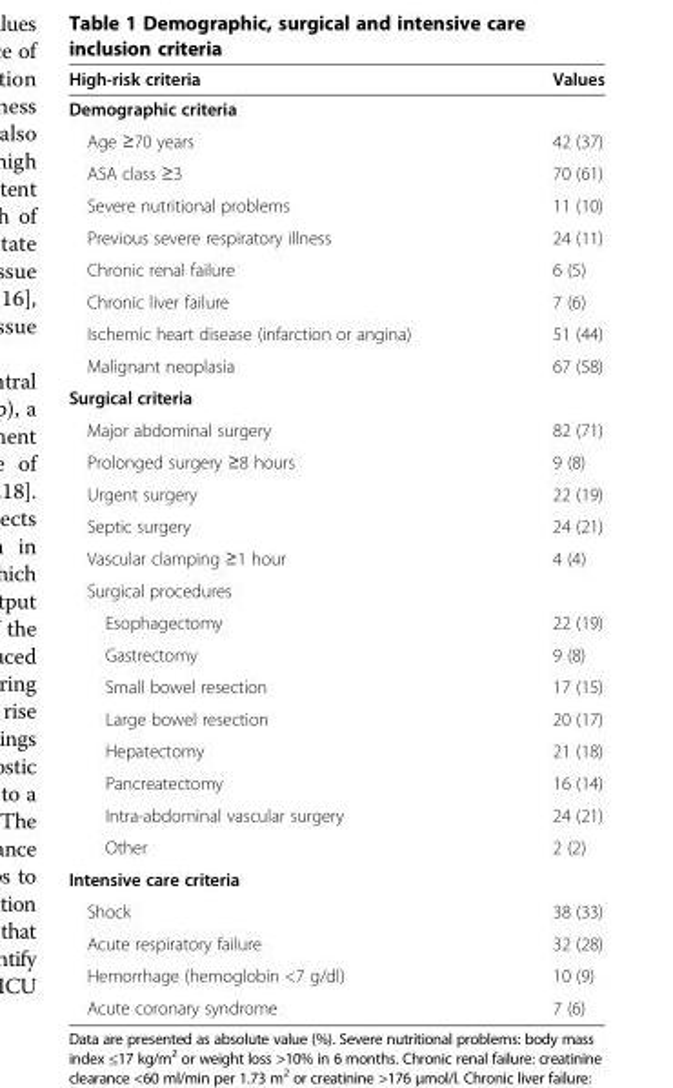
<table><thead><tr><td>High-risk criteria</td><td>Values</td></tr></thead><tbody><tr><td colspan="2">Demographic criteria</td></tr><tr><td>Age ≥70 years</td><td>42 (37)</td></tr><tr><td>ASA class ≥3</td><td>70 (61)</td></tr><tr><td>Severe nutritional problems</td><td>11 (10)</td></tr><tr><td>Previous severe respiratory illness</td><td>24 (11)</td></tr><tr><td>Chronic renal failure</td><td>6 (5)</td></tr><tr><td>Chronic liver failure</td><td>7 (6)</td></tr><tr><td>Ischemic heart disease (infarction or angina)</td><td>51 (44)</td></tr><tr><td>Malignant neoplasia</td><td>67 (58)</td></tr><tr><td colspan="2">Surgical criteria</td></tr><tr><td>Major abdominal surgery</td><td>82 (71)</td></tr><tr><td>Prolonged surgery ≥8 hours</td><td>9 (8)</td></tr><tr><td>Urgent surgery</td><td>22 (19)</td></tr><tr><td>Septic surgery</td><td>24 (21)</td></tr><tr><td>Vascular clamping ≥1 hour</td><td>4 (4)</td></tr><tr><td colspan="2">Surgical procedures</td></tr><tr><td>Esophagectomy</td><td>22 (19)</td></tr><tr><td>Gastrectomy</td><td>9 (8)</td></tr><tr><td>Small bowel resection</td><td>17 (15)</td></tr><tr><td>Large bowel resection</td><td>20 (17)</td></tr><tr><td>Hepatectomy</td><td>21 (18)</td></tr><tr><td>Pancreatectomy</td><td>16 (14)</td></tr><tr><td>Intra-abdominal vascular surgery</td><td>24 (21)</td></tr><tr><td>Other</td><td>2 (2)</td></tr><tr><td colspan="2">Intensive care criteria</td></tr><tr><td>Shock</td><td>38 (33)</td></tr><tr><td>Acute respiratory failure</td><td>32 (28)</td></tr><tr><td>Hemorrhage (hemoglobin &lt;7 g/dl)</td><td>10 (9)</td></tr><tr><td>Acute coronary syndrome</td><td>7 (6)</td></tr></tbody></table>